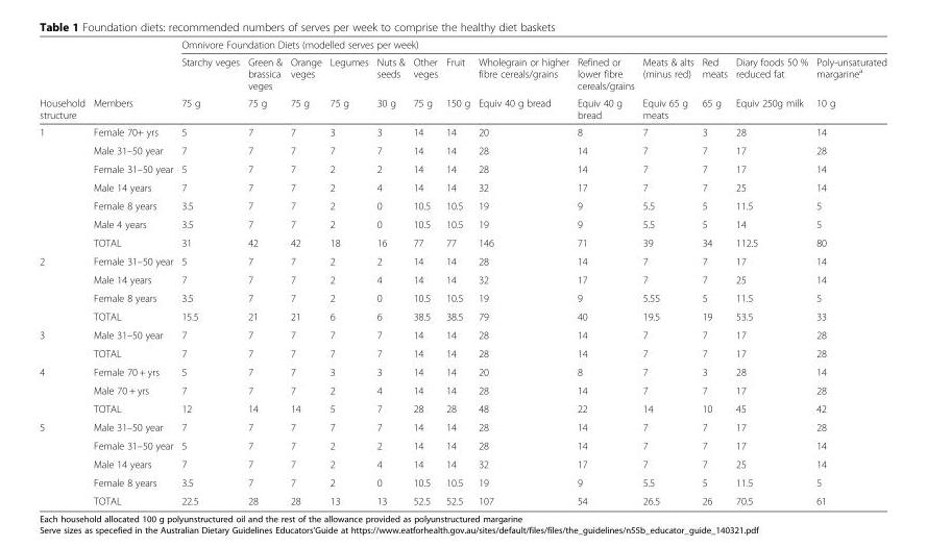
<table><thead><tr><td rowspan="3">Household structure</td><td rowspan="3">Members</td><td colspan="13">Omnivore Foundation Diets (modelled serves per week)</td></tr><tr><td rowspan="2">Starchy veges 75 g</td><td rowspan="2">Green &amp; brassica veges 75 g</td><td rowspan="2">Orange veges 75 g</td><td rowspan="2">Legumes 75 g</td><td rowspan="2">Nuts &amp; seeds 30 g</td><td rowspan="2">Other veges 75 g</td><td rowspan="2">Fruit 150 g</td><td rowspan="2">Wholegrain or higher fibre cereals/grains Equiv 40 g bread</td><td rowspan="2">Refined or lower fibre cereals/grains Equiv 40 g bread</td><td rowspan="2">Meats &amp; alts (minus red) Equiv 65 g meats</td><td rowspan="2">Red meats 65 g</td><td rowspan="2">Diary foods 50 % reduced fat Equiv 250g milk</td><td rowspan="2">Poly-unsaturated margarine<sup>a</sup> 10 g</td></tr><tr></tr></thead><tbody><tr><td rowspan="7">1</td><td>Female 70+ yrs</td><td>5</td><td>7</td><td>7</td><td>3</td><td>3</td><td>14</td><td>14</td><td>20</td><td>8</td><td>7</td><td>3</td><td>28</td><td>14</td></tr><tr><td>Male 31–50 year</td><td>7</td><td>7</td><td>7</td><td>7</td><td>7</td><td>14</td><td>14</td><td>28</td><td>14</td><td>7</td><td>7</td><td>17</td><td>28</td></tr><tr><td>Female 31–50 year</td><td>5</td><td>7</td><td>7</td><td>2</td><td>2</td><td>14</td><td>14</td><td>28</td><td>14</td><td>7</td><td>7</td><td>17</td><td>14</td></tr><tr><td>Male 14 years</td><td>7</td><td>7</td><td>7</td><td>2</td><td>4</td><td>14</td><td>14</td><td>32</td><td>17</td><td>7</td><td>7</td><td>25</td><td>14</td></tr><tr><td>Female 8 years</td><td>3.5</td><td>7</td><td>7</td><td>2</td><td>0</td><td>10.5</td><td>10.5</td><td>19</td><td>9</td><td>5.5</td><td>5</td><td>11.5</td><td>5</td></tr><tr><td>Male 4 years</td><td>3.5</td><td>7</td><td>7</td><td>2</td><td>0</td><td>10.5</td><td>10.5</td><td>19</td><td>9</td><td>5.5</td><td>5</td><td>14</td><td>5</td></tr><tr><td>TOTAL</td><td>31</td><td>42</td><td>42</td><td>18</td><td>16</td><td>77</td><td>77</td><td>146</td><td>71</td><td>39</td><td>34</td><td>112.5</td><td>80</td></tr><tr><td rowspan="4">2</td><td>Female 31–50 year</td><td>5</td><td>7</td><td>7</td><td>2</td><td>2</td><td>14</td><td>14</td><td>28</td><td>14</td><td>7</td><td>7</td><td>17</td><td>14</td></tr><tr><td>Male 14 years</td><td>7</td><td>7</td><td>7</td><td>2</td><td>4</td><td>14</td><td>14</td><td>32</td><td>17</td><td>7</td><td>7</td><td>25</td><td>14</td></tr><tr><td>Female 8 years</td><td>3.5</td><td>7</td><td>7</td><td>2</td><td>0</td><td>10.5</td><td>10.5</td><td>19</td><td>9</td><td>5.55</td><td>5</td><td>11.5</td><td>5</td></tr><tr><td>TOTAL</td><td>15.5</td><td>21</td><td>21</td><td>6</td><td>6</td><td>38.5</td><td>38.5</td><td>79</td><td>40</td><td>19.5</td><td>19</td><td>53.5</td><td>33</td></tr><tr><td rowspan="2">3</td><td>Male 31–50 year</td><td>7</td><td>7</td><td>7</td><td>7</td><td>7</td><td>14</td><td>14</td><td>28</td><td>14</td><td>7</td><td>7</td><td>17</td><td>28</td></tr><tr><td>TOTAL</td><td>7</td><td>7</td><td>7</td><td>7</td><td>7</td><td>14</td><td>14</td><td>28</td><td>14</td><td>7</td><td>7</td><td>17</td><td>28</td></tr><tr><td rowspan="3">4</td><td>Female 70 + yrs</td><td>5</td><td>7</td><td>7</td><td>3</td><td>3</td><td>14</td><td>14</td><td>20</td><td>8</td><td>7</td><td>3</td><td>28</td><td>14</td></tr><tr><td>Male 70 + yrs</td><td>7</td><td>7</td><td>7</td><td>2</td><td>4</td><td>14</td><td>14</td><td>28</td><td>14</td><td>7</td><td>7</td><td>17</td><td>28</td></tr><tr><td>TOTAL</td><td>12</td><td>14</td><td>14</td><td>5</td><td>7</td><td>28</td><td>28</td><td>48</td><td>22</td><td>14</td><td>10</td><td>45</td><td>42</td></tr><tr><td rowspan="5">5</td><td>Male 31–50 year</td><td>7</td><td>7</td><td>7</td><td>7</td><td>7</td><td>14</td><td>14</td><td>28</td><td>14</td><td>7</td><td>7</td><td>17</td><td>28</td></tr><tr><td>Female 31–50 year</td><td>5</td><td>7</td><td>7</td><td>2</td><td>2</td><td>14</td><td>14</td><td>28</td><td>14</td><td>7</td><td>7</td><td>17</td><td>14</td></tr><tr><td>Male 14 years</td><td>7</td><td>7</td><td>7</td><td>2</td><td>4</td><td>14</td><td>14</td><td>32</td><td>17</td><td>7</td><td>7</td><td>25</td><td>14</td></tr><tr><td>Female 8 years</td><td>3.5</td><td>7</td><td>7</td><td>2</td><td>0</td><td>10.5</td><td>10.5</td><td>19</td><td>9</td><td>5.5</td><td>5</td><td>11.5</td><td>5</td></tr><tr><td>TOTAL</td><td>22.5</td><td>28</td><td>28</td><td>13</td><td>13</td><td>52.5</td><td>52.5</td><td>107</td><td>54</td><td>26.5</td><td>26</td><td>70.5</td><td>61</td></tr></tbody></table>